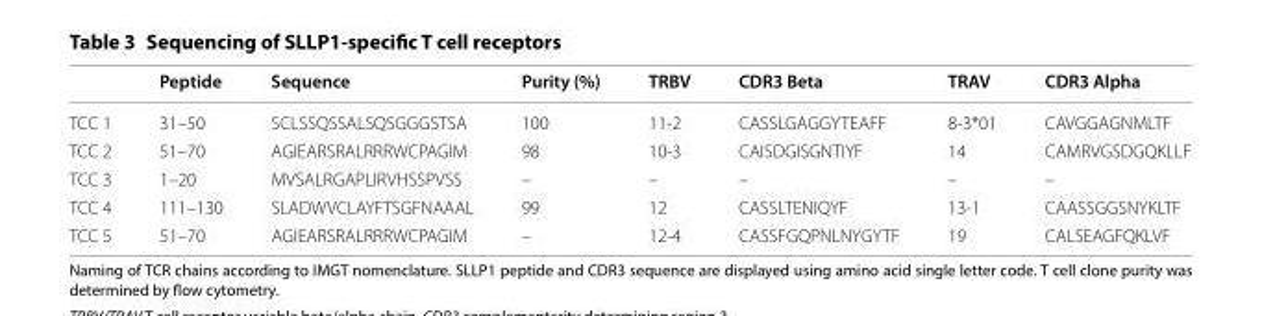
<table><thead><tr><td></td><td>Peptide</td><td>Sequence</td><td>Purity (%)</td><td>TRBV</td><td>CDR3 Beta</td><td>TRAV</td><td>CDR3 Alpha</td></tr></thead><tbody><tr><td>TCC 1</td><td>31–50</td><td>SCLSSQSSALSQSGGGSTSA</td><td>100</td><td>11-2</td><td>CASSLGAGGYTEAFF</td><td>8-3*01</td><td>CAVGGAGNMLTF</td></tr><tr><td>TCC 2</td><td>51–70</td><td>AGIEARSRALRRRWCPAGIM</td><td>98</td><td>10-3</td><td>CAISDGISGNTIYF</td><td>14</td><td>CAMRVGSDGQKLLF</td></tr><tr><td>TCC 3</td><td>1–20</td><td>MVSALRGAPLIRVHSSPVSS</td><td>–</td><td>–</td><td>–</td><td>–</td><td>–</td></tr><tr><td>TCC 4</td><td>111–130</td><td>SLADWVCLAYFTSGFNAAAL</td><td>99</td><td>12</td><td>CASSLTENIQYF</td><td>13-1</td><td>CAASSGGSNYKLTF</td></tr><tr><td>TCC 5</td><td>51–70</td><td>AGIEARSRALRRRWCPAGIM</td><td>–</td><td>12-4</td><td>CASSFGQPNLNYGYTF</td><td>19</td><td>CALSEAGFQKLVF</td></tr></tbody></table>